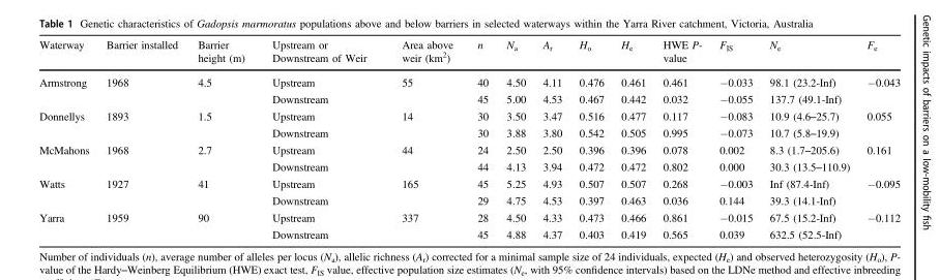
<table><thead><tr><td>Waterway</td><td>Barrier installed</td><td>Barrier height (m)</td><td>Upstream or Downstream of Weir</td><td>Area above weir (km<sup>2</sup>)</td><td>n</td><td>N<sub>a</sub></td><td>A<sub>r</sub></td><td>H<sub>o</sub></td><td>H<sub>e</sub></td><td>HWE P- value</td><td>F<sub>IS</sub></td><td>N<sub>e</sub></td><td>F<sub>e</sub></td></tr></thead><tbody><tr><td rowspan="2">Armstrong</td><td>1968</td><td>4.5</td><td>Upstream</td><td>55</td><td>40</td><td>4.50</td><td>4.11</td><td>0.476</td><td>0.461</td><td>0.461</td><td>−0.033</td><td>98.1 (23.2-Inf)</td><td>−0.043</td></tr><tr><td></td><td></td><td>Downstream</td><td></td><td>45</td><td>5.00</td><td>4.53</td><td>0.467</td><td>0.442</td><td>0.032</td><td>−0.055</td><td>137.7 (49.1-Inf)</td><td></td></tr><tr><td rowspan="2">Donnellys</td><td>1893</td><td>1.5</td><td>Upstream</td><td>14</td><td>30</td><td>3.50</td><td>3.47</td><td>0.516</td><td>0.477</td><td>0.117</td><td>−0.083</td><td>10.9 (4.6–25.7)</td><td>0.055</td></tr><tr><td></td><td></td><td>Downstream</td><td></td><td>30</td><td>3.88</td><td>3.80</td><td>0.542</td><td>0.505</td><td>0.995</td><td>−0.073</td><td>10.7 (5.8–19.9)</td><td></td></tr><tr><td rowspan="2">McMahons</td><td>1968</td><td>2.7</td><td>Upstream</td><td>44</td><td>24</td><td>2.50</td><td>2.50</td><td>0.396</td><td>0.396</td><td>0.078</td><td>0.002</td><td>8.3 (1.7–205.6)</td><td>0.161</td></tr><tr><td></td><td></td><td>Downstream</td><td></td><td>44</td><td>4.13</td><td>3.94</td><td>0.472</td><td>0.472</td><td>0.802</td><td>0.000</td><td>30.3 (13.5–110.9)</td><td></td></tr><tr><td rowspan="2">Watts</td><td>1927</td><td>41</td><td>Upstream</td><td>165</td><td>45</td><td>5.25</td><td>4.93</td><td>0.507</td><td>0.507</td><td>0.268</td><td>−0.003</td><td>Inf (87.4-Inf)</td><td>−0.095</td></tr><tr><td></td><td></td><td>Downstream</td><td></td><td>29</td><td>4.75</td><td>4.53</td><td>0.397</td><td>0.463</td><td>0.036</td><td>0.144</td><td>39.3 (14.1-Inf)</td><td></td></tr><tr><td rowspan="2">Yarra</td><td>1959</td><td>90</td><td>Upstream</td><td>337</td><td>28</td><td>4.50</td><td>4.33</td><td>0.473</td><td>0.466</td><td>0.861</td><td>−0.015</td><td>67.5 (15.2-Inf)</td><td>−0.112</td></tr><tr><td></td><td></td><td>Downstream</td><td></td><td>45</td><td>4.88</td><td>4.37</td><td>0.403</td><td>0.419</td><td>0.565</td><td>0.039</td><td>632.5 (52.5-Inf)</td><td></td></tr></tbody></table>